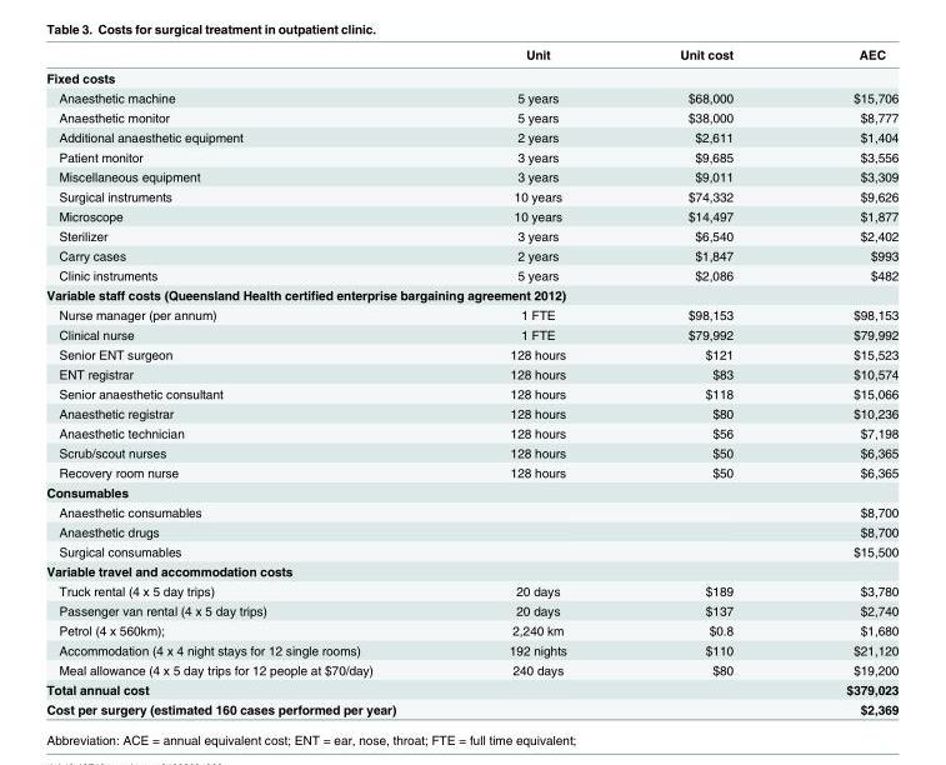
<table><thead><tr><td></td><td>Unit</td><td>Unit cost</td><td>AEC</td></tr></thead><tbody><tr><td colspan="4">Fixed costs</td></tr><tr><td>Anaesthetic machine</td><td>5 years</td><td>$68,000</td><td>$15,706</td></tr><tr><td>Anaesthetic monitor</td><td>5 years</td><td>$38,000</td><td>$8,777</td></tr><tr><td>Additional anaesthetic equipment</td><td>2 years</td><td>$2,611</td><td>$1,404</td></tr><tr><td>Patient monitor</td><td>3 years</td><td>$9,685</td><td>$3,556</td></tr><tr><td>Miscellaneous equipment</td><td>3 years</td><td>$9,011</td><td>$3,309</td></tr><tr><td>Surgical instruments</td><td>10 years</td><td>$74,332</td><td>$9,626</td></tr><tr><td>Microscope</td><td>10 years</td><td>$14,497</td><td>$1,877</td></tr><tr><td>Sterilizer</td><td>3 years</td><td>$6,540</td><td>$2,402</td></tr><tr><td>Carry cases</td><td>2 years</td><td>$1,847</td><td>$993</td></tr><tr><td>Clinic instruments</td><td>5 years</td><td>$2,086</td><td>$482</td></tr><tr><td colspan="4">Variable staff costs (Queensland Health certified enterprise bargaining agreement 2012)</td></tr><tr><td>Nurse manager (per annum)</td><td>1 FTE</td><td>$98,153</td><td>$98,153</td></tr><tr><td>Clinical nurse</td><td>1 FTE</td><td>$79,992</td><td>$79,992</td></tr><tr><td>Senior ENT surgeon</td><td>128 hours</td><td>$121</td><td>$15,523</td></tr><tr><td>ENT registrar</td><td>128 hours</td><td>$83</td><td>$10,574</td></tr><tr><td>Senior anaesthetic consultant</td><td>128 hours</td><td>$118</td><td>$15,066</td></tr><tr><td>Anaesthetic registrar</td><td>128 hours</td><td>$80</td><td>$10,236</td></tr><tr><td>Anaesthetic technician</td><td>128 hours</td><td>$56</td><td>$7,198</td></tr><tr><td>Scrub/scout nurses</td><td>128 hours</td><td>$50</td><td>$6,365</td></tr><tr><td>Recovery room nurse</td><td>128 hours</td><td>$50</td><td>$6,365</td></tr><tr><td colspan="4">Consumables</td></tr><tr><td>Anaesthetic consumables</td><td></td><td></td><td>$8,700</td></tr><tr><td>Anaesthetic drugs</td><td></td><td></td><td>$8,700</td></tr><tr><td>Surgical consumables</td><td></td><td></td><td>$15,500</td></tr><tr><td colspan="4">Variable travel and accommodation costs</td></tr><tr><td>Truck rental (4 x 5 day trips)</td><td>20 days</td><td>$189</td><td>$3,780</td></tr><tr><td>Passenger van rental (4 x 5 day trips)</td><td>20 days</td><td>$137</td><td>$2,740</td></tr><tr><td>Petrol (4 x 560km);</td><td>2,240 km</td><td>$0.8</td><td>$1,680</td></tr><tr><td>Accommodation (4 x 4 night stays for 12 single rooms)</td><td>192 nights</td><td>$110</td><td>$21,120</td></tr><tr><td>Meal allowance (4 x 5 day trips for 12 people at $70/day)</td><td>240 days</td><td>$80</td><td>$19,200</td></tr><tr><td>Total annual cost</td><td></td><td></td><td>$379,023</td></tr><tr><td>Cost per surgery (estimated 160 cases performed per year)</td><td></td><td></td><td>$2,369</td></tr></tbody></table>